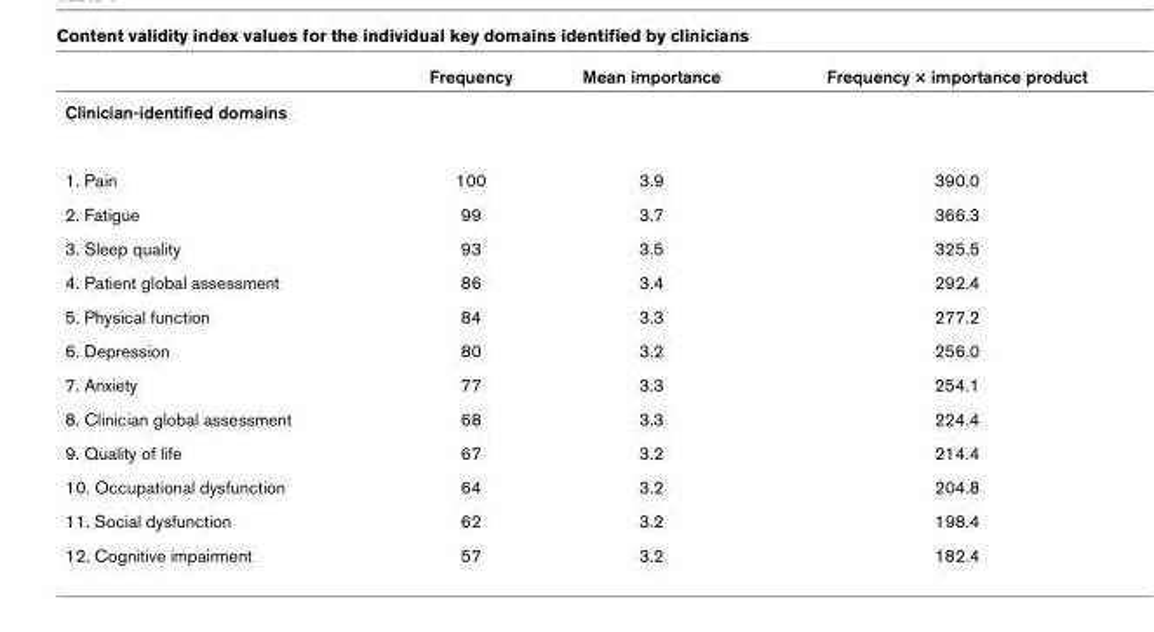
<table><thead><tr><td></td><td>Frequency</td><td>Mean importance</td><td>Frequency × importance product</td></tr></thead><tbody><tr><td colspan="4">Clinician-identified domains</td></tr><tr><td>1. Pain</td><td>100</td><td>3.9</td><td>390.0</td></tr><tr><td>2. Fatigue</td><td>99</td><td>3.7</td><td>366.3</td></tr><tr><td>3. Sleep quality</td><td>93</td><td>3.5</td><td>325.5</td></tr><tr><td>4. Patient global assessment</td><td>86</td><td>3.4</td><td>292.4</td></tr><tr><td>5. Physical function</td><td>84</td><td>3.3</td><td>277.2</td></tr><tr><td>6. Depression</td><td>80</td><td>3.2</td><td>256.0</td></tr><tr><td>7. Anxiety</td><td>77</td><td>3.3</td><td>254.1</td></tr><tr><td>8. Clinician global assessment</td><td>68</td><td>3.3</td><td>224.4</td></tr><tr><td>9. Quality of life</td><td>67</td><td>3.2</td><td>214.4</td></tr><tr><td>10. Occupational dysfunction</td><td>64</td><td>3.2</td><td>204.8</td></tr><tr><td>11. Social dysfunction</td><td>62</td><td>3.2</td><td>198.4</td></tr><tr><td>12. Cognitive impairment</td><td>57</td><td>3.2</td><td>182.4</td></tr></tbody></table>